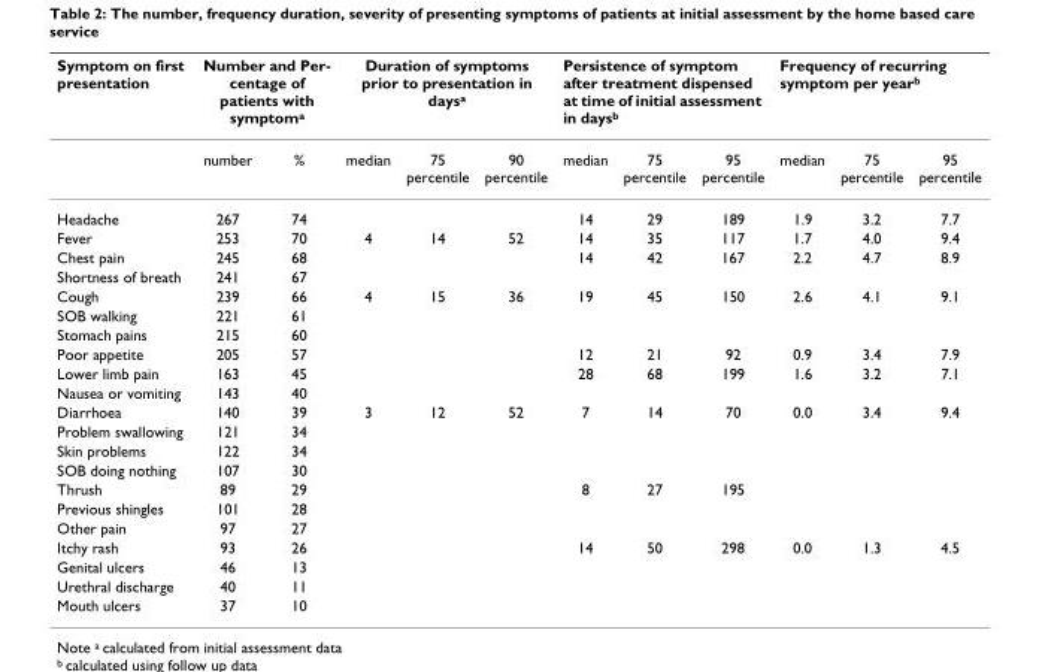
<table><thead><tr><td rowspan="2">Symptom on first presentation</td><td colspan="2">Number and Per- centage of patients with symptoma</td><td colspan="3">Duration of symptoms prior to presentation in days<sup>a</sup></td><td colspan="3">Persistence of symptom after treatment dispensed at time of initial assessment in days<sup>b</sup></td><td colspan="3">Frequency of recurring symptom per year<sup>b</sup></td></tr><tr><td>number</td><td>%</td><td>median</td><td>75 percentile</td><td>90 percentile</td><td>median</td><td>75 percentile</td><td>95 percentile</td><td>median</td><td>75 percentile</td><td>95 percentile</td></tr></thead><tbody><tr><td>Headache</td><td>267</td><td>74</td><td></td><td></td><td></td><td>14</td><td>29</td><td>189</td><td>1.9</td><td>3.2</td><td>7.7</td></tr><tr><td>Fever</td><td>253</td><td>70</td><td>4</td><td>14</td><td>52</td><td>14</td><td>35</td><td>117</td><td>1.7</td><td>4.0</td><td>9.4</td></tr><tr><td>Chest pain</td><td>245</td><td>68</td><td></td><td></td><td></td><td>14</td><td>42</td><td>167</td><td>2.2</td><td>4.7</td><td>8.9</td></tr><tr><td>Shortness of breath</td><td>241</td><td>67</td><td></td><td></td><td></td><td></td><td></td><td></td><td></td><td></td><td></td></tr><tr><td>Cough</td><td>239</td><td>66</td><td>4</td><td>15</td><td>36</td><td>19</td><td>45</td><td>150</td><td>2.6</td><td>4.1</td><td>9.1</td></tr><tr><td>SOB walking</td><td>221</td><td>61</td><td></td><td></td><td></td><td></td><td></td><td></td><td></td><td></td><td></td></tr><tr><td>Stomach pains</td><td>215</td><td>60</td><td></td><td></td><td></td><td></td><td></td><td></td><td></td><td></td><td></td></tr><tr><td>Poor appetite</td><td>205</td><td>57</td><td></td><td></td><td></td><td>12</td><td>21</td><td>92</td><td>0.9</td><td>3.4</td><td>7.9</td></tr><tr><td>Lower limb pain</td><td>163</td><td>45</td><td></td><td></td><td></td><td>28</td><td>68</td><td>199</td><td>1.6</td><td>3.2</td><td>7.1</td></tr><tr><td>Nausea or vomiting</td><td>143</td><td>40</td><td></td><td></td><td></td><td></td><td></td><td></td><td></td><td></td><td></td></tr><tr><td>Diarrhoea</td><td>140</td><td>39</td><td>3</td><td>12</td><td>52</td><td>7</td><td>14</td><td>70</td><td>0.0</td><td>3.4</td><td>9.4</td></tr><tr><td>Problem swallowing</td><td>121</td><td>34</td><td></td><td></td><td></td><td></td><td></td><td></td><td></td><td></td><td></td></tr><tr><td>Skin problems</td><td>122</td><td>34</td><td></td><td></td><td></td><td></td><td></td><td></td><td></td><td></td><td></td></tr><tr><td>SOB doing nothing</td><td>107</td><td>30</td><td></td><td></td><td></td><td></td><td></td><td></td><td></td><td></td><td></td></tr><tr><td>Thrush</td><td>89</td><td>29</td><td></td><td></td><td></td><td>8</td><td>27</td><td>195</td><td></td><td></td><td></td></tr><tr><td>Previous shingles</td><td>101</td><td>28</td><td></td><td></td><td></td><td></td><td></td><td></td><td></td><td></td><td></td></tr><tr><td>Other pain</td><td>97</td><td>27</td><td></td><td></td><td></td><td></td><td></td><td></td><td></td><td></td><td></td></tr><tr><td>Itchy rash</td><td>93</td><td>26</td><td></td><td></td><td></td><td>14</td><td>50</td><td>298</td><td>0.0</td><td>1.3</td><td>4.5</td></tr><tr><td>Genital ulcers</td><td>46</td><td>13</td><td></td><td></td><td></td><td></td><td></td><td></td><td></td><td></td><td></td></tr><tr><td>Urethral discharge</td><td>40</td><td>11</td><td></td><td></td><td></td><td></td><td></td><td></td><td></td><td></td><td></td></tr><tr><td>Mouth ulcers</td><td>37</td><td>10</td><td></td><td></td><td></td><td></td><td></td><td></td><td></td><td></td><td></td></tr></tbody></table>